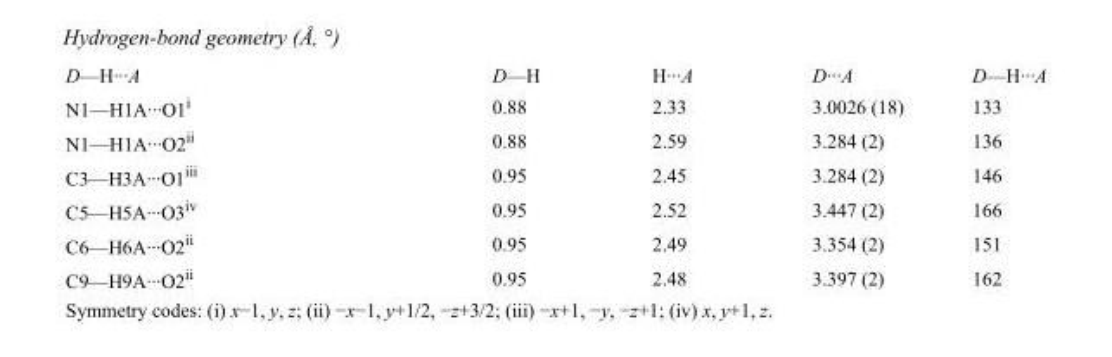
<table><tbody><tr><td>D—H···A</td><td>D—H</td><td>H···A</td><td>D···A</td><td>D—H···A</td></tr><tr><td>N1—H1A···O1<sup>i</sup></td><td>0.88</td><td>2.33</td><td>3.0026 (18)</td><td>133</td></tr><tr><td>N1—H1A···O2<sup>ii</sup></td><td>0.88</td><td>2.59</td><td>3.284 (2)</td><td>136</td></tr><tr><td>C3—H3A···O1<sup>iii</sup></td><td>0.95</td><td>2.45</td><td>3.284 (2)</td><td>146</td></tr><tr><td>C5—H5A···O3<sup>iv</sup></td><td>0.95</td><td>2.52</td><td>3.447 (2)</td><td>166</td></tr><tr><td>C6—H6A···O2<sup>ii</sup></td><td>0.95</td><td>2.49</td><td>3.354 (2)</td><td>151</td></tr><tr><td>C9—H9A···O2<sup>ii</sup></td><td>0.95</td><td>2.48</td><td>3.397 (2)</td><td>162</td></tr></tbody></table>